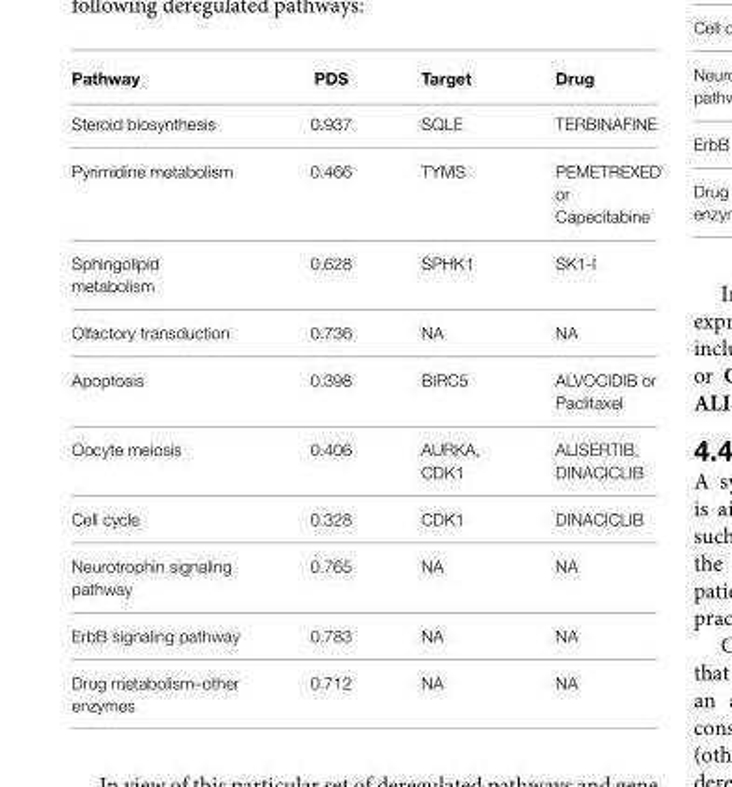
<table><thead><tr><td>Pathway</td><td>PDS</td><td>Target</td><td>Drug</td></tr></thead><tbody><tr><td>Steroid biosynthesis</td><td>0.937</td><td>SQLE</td><td>TERBINAFINE</td></tr><tr><td>Pyrimidine metabolism</td><td>0.466</td><td>TYMS</td><td>PEMETREXED or Capecitabine</td></tr><tr><td>Sphingolipid metabolism</td><td>0.628</td><td>SPHK1</td><td>SK1-I</td></tr><tr><td>Olfactory transduction</td><td>0.736</td><td>NA</td><td>NA</td></tr><tr><td>Apoptosis</td><td>0.398</td><td>BIRC5</td><td>ALVOCIDIB or Paclitaxel</td></tr><tr><td>Oocyte meiosis</td><td>0.406</td><td>AURKA, CDK1</td><td>ALISERTIB, DINACICLIB</td></tr><tr><td>Cell cycle</td><td>0.328</td><td>CDK1</td><td>DINACICLIB</td></tr><tr><td>Neurotrophin signaling pathway</td><td>0.765</td><td>NA</td><td>NA</td></tr><tr><td>ErbB signaling pathway</td><td>0.783</td><td>NA</td><td>NA</td></tr><tr><td>Drug metabolism–other enzymes</td><td>0.712</td><td>NA</td><td>NA</td></tr></tbody></table>